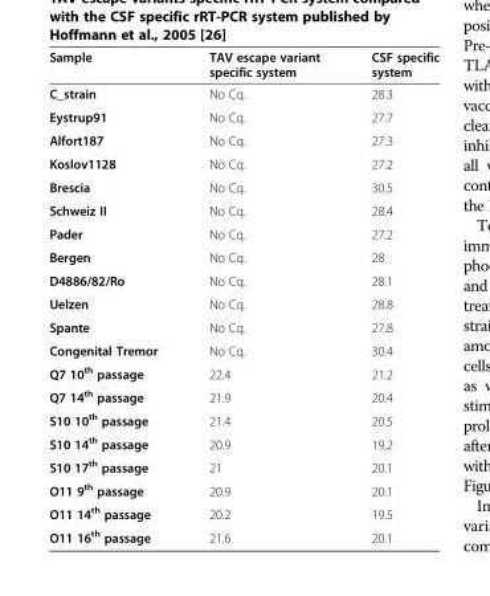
<table><thead><tr><td>Sample</td><td>TAV escape variant specific system</td><td>CSF specific system</td></tr></thead><tbody><tr><td>C_strain</td><td>No Cq.</td><td>28.3</td></tr><tr><td>Eystrup91</td><td>No Cq.</td><td>27.7</td></tr><tr><td>Alfort187</td><td>No Cq.</td><td>27.3</td></tr><tr><td>Koslov1128</td><td>No Cq.</td><td>27.2</td></tr><tr><td>Brescia</td><td>No Cq.</td><td>30.5</td></tr><tr><td>Schweiz II</td><td>No Cq.</td><td>28.4</td></tr><tr><td>Pader</td><td>No Cq.</td><td>27.2</td></tr><tr><td>Bergen</td><td>No Cq.</td><td>28</td></tr><tr><td>D4886/82/Ro</td><td>No Cq.</td><td>28.1</td></tr><tr><td>Uelzen</td><td>No Cq.</td><td>28.8</td></tr><tr><td>Spante</td><td>No Cq.</td><td>27.8</td></tr><tr><td>Congenital Tremor</td><td>No Cq.</td><td>30.4</td></tr><tr><td>Q7 10<sup>th</sup> passage</td><td>22.4</td><td>21.2</td></tr><tr><td>Q7 14<sup>th</sup> passage</td><td>21.9</td><td>20.4</td></tr><tr><td>S10 10<sup>th</sup> passage</td><td>21.4</td><td>20.5</td></tr><tr><td>S10 14<sup>th</sup> passage</td><td>20.9</td><td>19,2</td></tr><tr><td>S10 17<sup>th</sup> passage</td><td>21</td><td>20.1</td></tr><tr><td>O11 9<sup>th</sup> passage</td><td>20.9</td><td>20.1</td></tr><tr><td>O11 14<sup>th</sup> passage</td><td>20.2</td><td>19.5</td></tr><tr><td>O11 16<sup>th</sup> passage</td><td>21.6</td><td>20.1</td></tr></tbody></table>